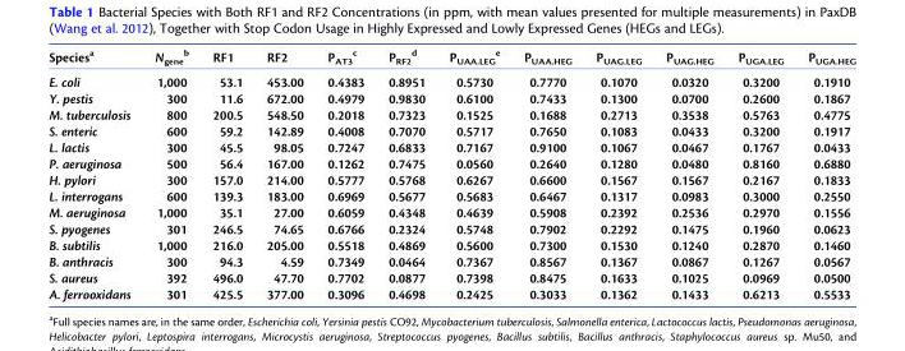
<table><thead><tr><td>Species<sup>a</sup></td><td>N<sub>gene</sub> <sup>b</sup></td><td>RF1</td><td>RF2</td><td>P<sub>AT3</sub> <sup>c</sup></td><td>P<sub>RF2</sub> <sup>d</sup></td><td>P<sub>UAA.LEG</sub> <sup>e</sup></td><td>P<sub>UAA.HEG</sub></td><td>P<sub>UAG.LEG</sub></td><td>P<sub>UAG.HEG</sub></td><td>P<sub>UGA.LEG</sub></td><td>P<sub>UGA.HEG</sub></td></tr></thead><tbody><tr><td>E. coli</td><td>1,000</td><td>53.1</td><td>453.00</td><td>0.4383</td><td>0.8951</td><td>0.5730</td><td>0.7770</td><td>0.1070</td><td>0.0320</td><td>0.3200</td><td>0.1910</td></tr><tr><td>Y. pestis</td><td>300</td><td>11.6</td><td>672.00</td><td>0.4979</td><td>0.9830</td><td>0.6100</td><td>0.7433</td><td>0.1300</td><td>0.0700</td><td>0.2600</td><td>0.1867</td></tr><tr><td>M. tuberculosis</td><td>800</td><td>200.5</td><td>548.50</td><td>0.2018</td><td>0.7323</td><td>0.1525</td><td>0.1688</td><td>0.2713</td><td>0.3538</td><td>0.5763</td><td>0.4775</td></tr><tr><td>S. enteric</td><td>600</td><td>59.2</td><td>142.89</td><td>0.4008</td><td>0.7070</td><td>0.5717</td><td>0.7650</td><td>0.1083</td><td>0.0433</td><td>0.3200</td><td>0.1917</td></tr><tr><td>L. lactis</td><td>300</td><td>45.5</td><td>98.05</td><td>0.7247</td><td>0.6833</td><td>0.7167</td><td>0.9100</td><td>0.1067</td><td>0.0467</td><td>0.1767</td><td>0.0433</td></tr><tr><td>P. aeruginosa</td><td>500</td><td>56.4</td><td>167.00</td><td>0.1262</td><td>0.7475</td><td>0.0560</td><td>0.2640</td><td>0.1280</td><td>0.0480</td><td>0.8160</td><td>0.6880</td></tr><tr><td>H. pylori</td><td>300</td><td>157.0</td><td>214.00</td><td>0.5777</td><td>0.5768</td><td>0.6267</td><td>0.6600</td><td>0.1567</td><td>0.1567</td><td>0.2167</td><td>0.1833</td></tr><tr><td>L. interrogans</td><td>600</td><td>139.3</td><td>183.00</td><td>0.6969</td><td>0.5677</td><td>0.5683</td><td>0.6467</td><td>0.1317</td><td>0.0983</td><td>0.3000</td><td>0.2550</td></tr><tr><td>M. aeruginosa</td><td>1,000</td><td>35.1</td><td>27.00</td><td>0.6059</td><td>0.4348</td><td>0.4639</td><td>0.5908</td><td>0.2392</td><td>0.2536</td><td>0.2970</td><td>0.1556</td></tr><tr><td>S. pyogenes</td><td>301</td><td>246.5</td><td>74.65</td><td>0.6766</td><td>0.2324</td><td>0.5748</td><td>0.7902</td><td>0.2292</td><td>0.1475</td><td>0.1960</td><td>0.0623</td></tr><tr><td>B. subtilis</td><td>1,000</td><td>216.0</td><td>205.00</td><td>0.5518</td><td>0.4869</td><td>0.5600</td><td>0.7300</td><td>0.1530</td><td>0.1240</td><td>0.2870</td><td>0.1460</td></tr><tr><td>B. anthracis</td><td>300</td><td>94.3</td><td>4.59</td><td>0.7349</td><td>0.0464</td><td>0.7367</td><td>0.8567</td><td>0.1367</td><td>0.0867</td><td>0.1267</td><td>0.0567</td></tr><tr><td>S. aureus</td><td>392</td><td>496.0</td><td>47.70</td><td>0.7702</td><td>0.0877</td><td>0.7398</td><td>0.8475</td><td>0.1633</td><td>0.1025</td><td>0.0969</td><td>0.0500</td></tr><tr><td>A. ferrooxidans</td><td>301</td><td>425.5</td><td>377.00</td><td>0.3096</td><td>0.4698</td><td>0.2425</td><td>0.3033</td><td>0.1362</td><td>0.1433</td><td>0.6213</td><td>0.5533</td></tr></tbody></table>